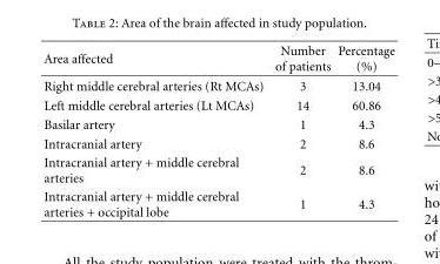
<table><thead><tr><td>Area affected</td><td>Number of patients</td><td>Percentage (%)</td></tr></thead><tbody><tr><td>Right middle cerebral arteries (Rt MCAs)</td><td>3</td><td>13.04</td></tr><tr><td>Left middle cerebral arteries (Lt MCAs)</td><td>14</td><td>60.86</td></tr><tr><td>Basilar artery</td><td>1</td><td>4.3</td></tr><tr><td>Intracranial artery</td><td>2</td><td>8.6</td></tr><tr><td>Intracranial artery + middle cerebral arteries</td><td>2</td><td>8.6</td></tr><tr><td>Intracranial artery + middle cerebral arteries + occipital lobe</td><td>1</td><td>4.3</td></tr></tbody></table>